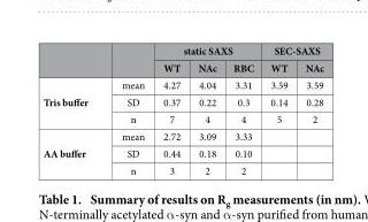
<table><thead><tr><td rowspan="2"></td><td rowspan="2"></td><td colspan="3">static SAXS</td><td colspan="2">SEC-SAXS</td></tr><tr><td>WT</td><td>NAc</td><td>RBC</td><td>WT</td><td>NAc</td></tr></thead><tbody><tr><td rowspan="3">Tris buffer</td><td>mean</td><td>4.27</td><td>4.04</td><td>3.31</td><td>3.59</td><td>3.59</td></tr><tr><td>SD</td><td>0.37</td><td>0.22</td><td>0.3</td><td>0.14</td><td>0.28</td></tr><tr><td>n</td><td>7</td><td>4</td><td>4</td><td>5</td><td>2</td></tr><tr><td rowspan="3">AA buffer</td><td>mean</td><td>2.72</td><td>3.09</td><td>3.33</td><td></td><td></td></tr><tr><td>SD</td><td>0.44</td><td>0.18</td><td>0.10</td><td></td><td></td></tr><tr><td>n</td><td>3</td><td>2</td><td>2</td><td></td><td></td></tr></tbody></table>